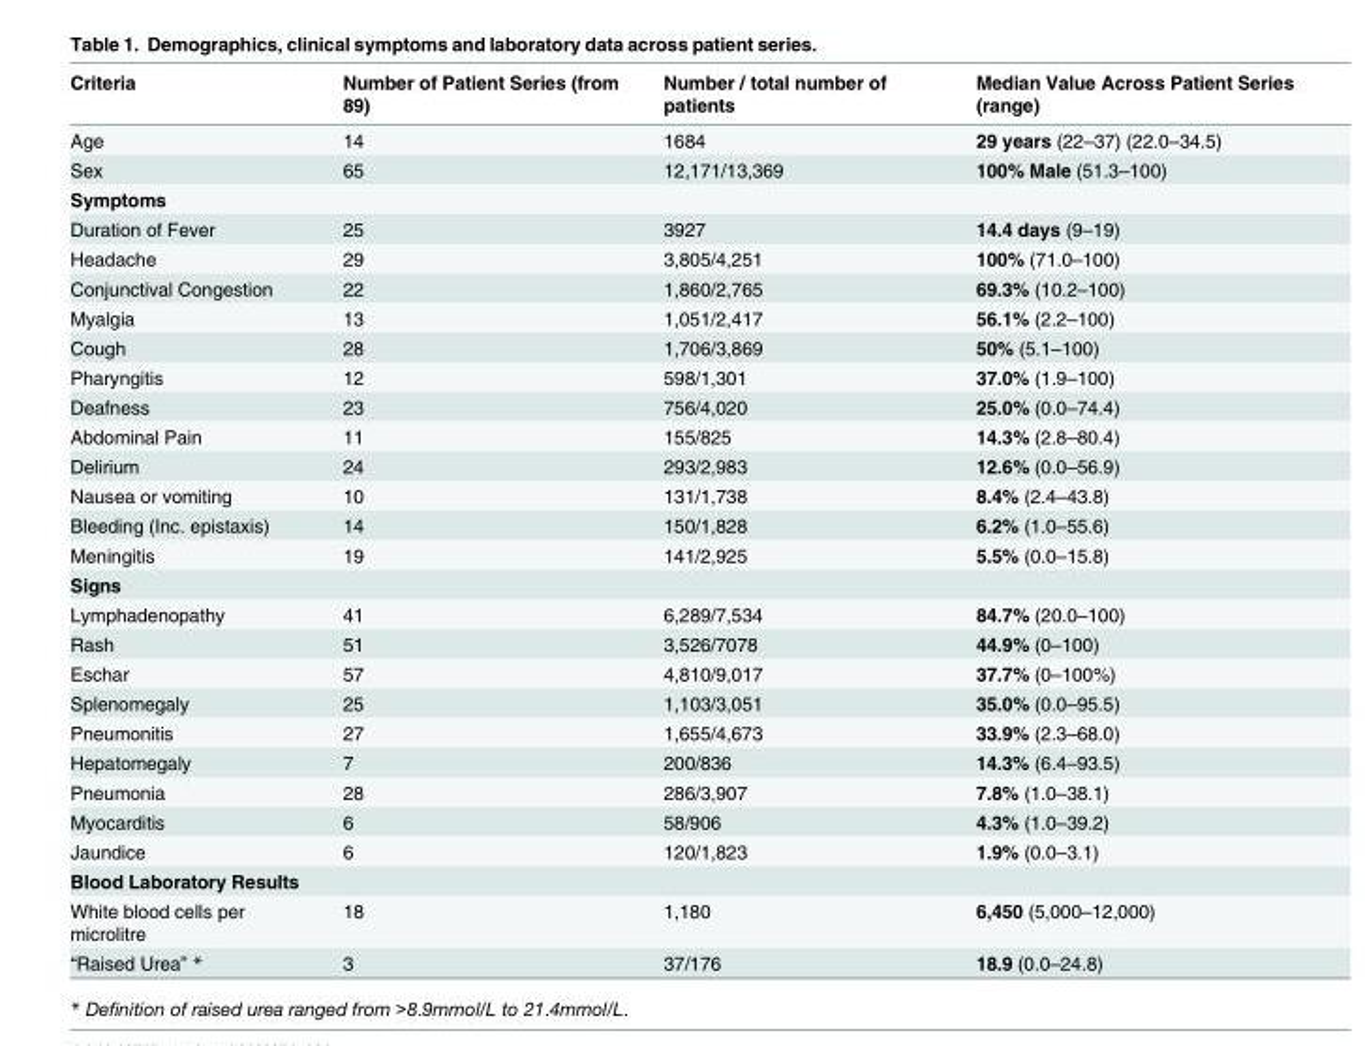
<table><thead><tr><td>Criteria</td><td>Number of Patient Series (from 89)</td><td>Number / total number of patients</td><td>Median Value Across Patient Series (range)</td></tr></thead><tbody><tr><td>Age</td><td>14</td><td>1684</td><td>29 years (22–37) (22.0–34.5)</td></tr><tr><td>Sex</td><td>65</td><td>12,171/13,369</td><td>100% Male (51.3–100)</td></tr><tr><td colspan="4">Symptoms</td></tr><tr><td>Duration of Fever</td><td>25</td><td>3927</td><td>14.4 days (9–19)</td></tr><tr><td>Headache</td><td>29</td><td>3,805/4,251</td><td>100% (71.0–100)</td></tr><tr><td>Conjunctival Congestion</td><td>22</td><td>1,860/2,765</td><td>69.3% (10.2–100)</td></tr><tr><td>Myalgia</td><td>13</td><td>1,051/2,417</td><td>56.1% (2.2–100)</td></tr><tr><td>Cough</td><td>28</td><td>1,706/3,869</td><td>50% (5.1–100)</td></tr><tr><td>Pharyngitis</td><td>12</td><td>598/1,301</td><td>37.0% (1.9–100)</td></tr><tr><td>Deafness</td><td>23</td><td>756/4,020</td><td>25.0% (0.0–74.4)</td></tr><tr><td>Abdominal Pain</td><td>11</td><td>155/825</td><td>14.3% (2.8–80.4)</td></tr><tr><td>Delirium</td><td>24</td><td>293/2,983</td><td>12.6% (0.0–56.9)</td></tr><tr><td>Nausea or vomiting</td><td>10</td><td>131/1,738</td><td>8.4% (2.4–43.8)</td></tr><tr><td>Bleeding (Inc. epistaxis)</td><td>14</td><td>150/1,828</td><td>6.2% (1.0–55.6)</td></tr><tr><td>Meningitis</td><td>19</td><td>141/2,925</td><td>5.5% (0.0–15.8)</td></tr><tr><td colspan="4">Signs</td></tr><tr><td>Lymphadenopathy</td><td>41</td><td>6,289/7,534</td><td>84.7% (20.0–100)</td></tr><tr><td>Rash</td><td>51</td><td>3,526/7078</td><td>44.9% (0–100)</td></tr><tr><td>Eschar</td><td>57</td><td>4,810/9,017</td><td>37.7% (0–100%)</td></tr><tr><td>Splenomegaly</td><td>25</td><td>1,103/3,051</td><td>35.0% (0.0–95.5)</td></tr><tr><td>Pneumonitis</td><td>27</td><td>1,655/4,673</td><td>33.9% (2.3–68.0)</td></tr><tr><td>Hepatomegaly</td><td>7</td><td>200/836</td><td>14.3% (6.4–93.5)</td></tr><tr><td>Pneumonia</td><td>28</td><td>286/3,907</td><td>7.8% (1.0–38.1)</td></tr><tr><td>Myocarditis</td><td>6</td><td>58/906</td><td>4.3% (1.0–39.2)</td></tr><tr><td>Jaundice</td><td>6</td><td>120/1,823</td><td>1.9% (0.0–3.1)</td></tr><tr><td colspan="4">Blood Laboratory Results</td></tr><tr><td>White blood cells per microlitre</td><td>18</td><td>1,180</td><td>6,450 (5,000–12,000)</td></tr><tr><td>“Raised Urea” *</td><td>3</td><td>37/176</td><td>18.9 (0.0–24.8)</td></tr></tbody></table>